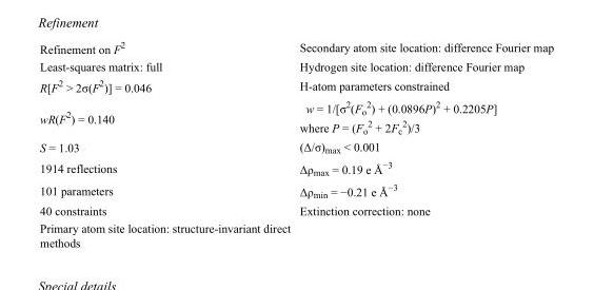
<table><tbody><tr><td>Refinement on F<sup>2</sup></td><td>Secondary atom site location: difference Fourier map</td></tr><tr><td>Least-squares matrix: full</td><td>Hydrogen site location: difference Fourier map</td></tr><tr><td>R[F<sup>2</sup> &gt; 2σ(F<sup>2</sup>)] = 0.046</td><td>H-atom parameters constrained</td></tr><tr><td>wR(F<sup>2</sup>) = 0.140</td><td>w = 1/[σ<sup>2</sup>(F<sub>o</sub> <sup>2</sup>) + (0.0896P)<sup>2</sup> + 0.2205P] where P = (F<sub>o</sub> <sup>2</sup> + 2F<sub>c</sub> <sup>2</sup>)/3</td></tr><tr><td>S = 1.03</td><td>(Δ/σ)<sub>max</sub> &lt; 0.001</td></tr><tr><td>1914 reflections</td><td>Δρ<sub>max</sub> = 0.19 e Å<sup>−3</sup></td></tr><tr><td>101 parameters</td><td>Δρ<sub>min</sub> = −0.21 e Å<sup>−3</sup></td></tr><tr><td>40 constraints</td><td>Extinction correction: none</td></tr><tr><td>Primary atom site location: structure-invariant direct methods</td><td></td></tr></tbody></table>